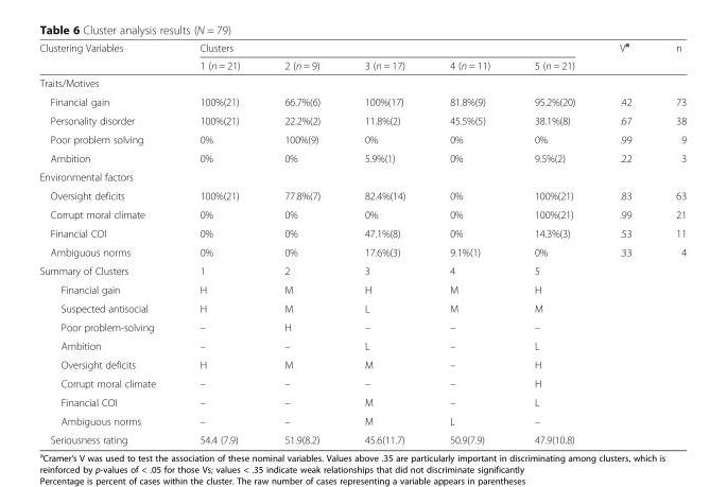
<table><thead><tr><td rowspan="2">Clustering Variables</td><td colspan="5">Clusters</td><td rowspan="2">V<sup>a</sup></td><td rowspan="2">n</td></tr><tr><td>1 (n = 21)</td><td>2 (n = 9)</td><td>3 (n = 17)</td><td>4 (n = 11)</td><td>5 (n = 21)</td></tr></thead><tbody><tr><td colspan="8">Traits/Motives</td></tr><tr><td>Financial gain</td><td>100%(21)</td><td>66.7%(6)</td><td>100%(17)</td><td>81.8%(9)</td><td>95.2%(20)</td><td>.42</td><td>73</td></tr><tr><td>Personality disorder</td><td>100%(21)</td><td>22.2%(2)</td><td>11.8%(2)</td><td>45.5%(5)</td><td>38.1%(8)</td><td>.67</td><td>38</td></tr><tr><td>Poor problem solving</td><td>0%</td><td>100%(9)</td><td>0%</td><td>0%</td><td>0%</td><td>.99</td><td>9</td></tr><tr><td>Ambition</td><td>0%</td><td>0%</td><td>5.9%(1)</td><td>0%</td><td>9.5%(2)</td><td>.22</td><td>3</td></tr><tr><td colspan="8">Environmental factors</td></tr><tr><td>Oversight deficits</td><td>100%(21)</td><td>77.8%(7)</td><td>82.4%(14)</td><td>0%</td><td>100%(21)</td><td>.83</td><td>63</td></tr><tr><td>Corrupt moral climate</td><td>0%</td><td>0%</td><td>0%</td><td>0%</td><td>100%(21)</td><td>.99</td><td>21</td></tr><tr><td>Financial COI</td><td>0%</td><td>0%</td><td>47.1%(8)</td><td>0%</td><td>14.3%(3)</td><td>.53</td><td>11</td></tr><tr><td>Ambiguous norms</td><td>0%</td><td>0%</td><td>17.6%(3)</td><td>9.1%(1)</td><td>0%</td><td>.33</td><td>4</td></tr><tr><td>Summary of Clusters</td><td>1</td><td>2</td><td>3</td><td>4</td><td>5</td><td></td><td></td></tr><tr><td>Financial gain</td><td>H</td><td>M</td><td>H</td><td>M</td><td>H</td><td></td><td></td></tr><tr><td>Suspected antisocial</td><td>H</td><td>M</td><td>L</td><td>M</td><td>M</td><td></td><td></td></tr><tr><td>Poor problem-solving</td><td>–</td><td>H</td><td>–</td><td>–</td><td>–</td><td></td><td></td></tr><tr><td>Ambition</td><td>–</td><td>–</td><td>L</td><td>–</td><td>L</td><td></td><td></td></tr><tr><td>Oversight deficits</td><td>H</td><td>M</td><td>M</td><td>–</td><td>H</td><td></td><td></td></tr><tr><td>Corrupt moral climate</td><td>–</td><td>–</td><td>–</td><td>–</td><td>H</td><td></td><td></td></tr><tr><td>Financial COI</td><td>–</td><td>–</td><td>M</td><td>–</td><td>L</td><td></td><td></td></tr><tr><td>Ambiguous norms</td><td>–</td><td>–</td><td>M</td><td>L</td><td>–</td><td></td><td></td></tr><tr><td>Seriousness rating</td><td>54.4 (7.9)</td><td>51.9(8.2)</td><td>45.6(11.7)</td><td>50.9(7.9)</td><td>47.9(10.8)</td><td></td><td></td></tr></tbody></table>